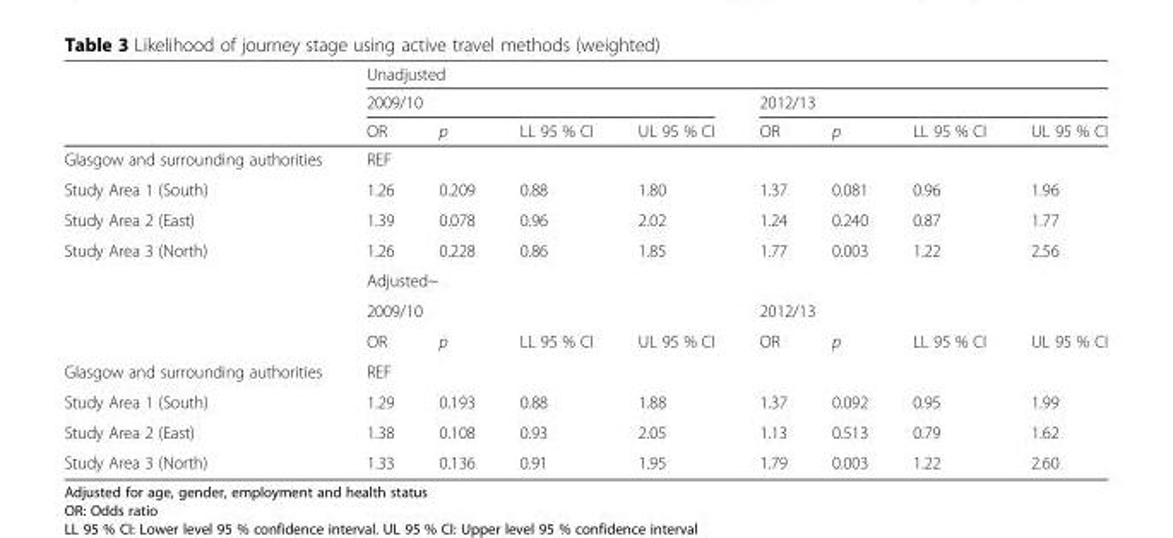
<table><thead><tr><td rowspan="3"></td><td colspan="8">Unadjusted</td></tr><tr><td colspan="4">2009/10</td><td colspan="4">2012/13</td></tr><tr><td>OR</td><td>p</td><td>LL 95 % CI</td><td>UL 95 % CI</td><td>OR</td><td>p</td><td>LL 95 % CI</td><td>UL 95 % CI</td></tr></thead><tbody><tr><td>Glasgow and surrounding authorities</td><td colspan="8">REF</td></tr><tr><td>Study Area 1 (South)</td><td>1.26</td><td>0.209</td><td>0.88</td><td>1.80</td><td>1.37</td><td>0.081</td><td>0.96</td><td>1.96</td></tr><tr><td>Study Area 2 (East)</td><td>1.39</td><td>0.078</td><td>0.96</td><td>2.02</td><td>1.24</td><td>0.240</td><td>0.87</td><td>1.77</td></tr><tr><td rowspan="4">Study Area 3 (North)</td><td>1.26</td><td>0.228</td><td>0.86</td><td>1.85</td><td>1.77</td><td>0.003</td><td>1.22</td><td>2.56</td></tr><tr><td colspan="8">Adjusted~</td></tr><tr><td colspan="4">2009/10</td><td colspan="4">2012/13</td></tr><tr><td>OR</td><td>p</td><td>LL 95 % CI</td><td>UL 95 % CI</td><td>OR</td><td>p</td><td>LL 95 % CI</td><td>UL 95 % CI</td></tr><tr><td>Glasgow and surrounding authorities</td><td colspan="8">REF</td></tr><tr><td>Study Area 1 (South)</td><td>1.29</td><td>0.193</td><td>0.88</td><td>1.88</td><td>1.37</td><td>0.092</td><td>0.95</td><td>1.99</td></tr><tr><td>Study Area 2 (East)</td><td>1.38</td><td>0.108</td><td>0.93</td><td>2.05</td><td>1.13</td><td>0.513</td><td>0.79</td><td>1.62</td></tr><tr><td>Study Area 3 (North)</td><td>1.33</td><td>0.136</td><td>0.91</td><td>1.95</td><td>1.79</td><td>0.003</td><td>1.22</td><td>2.60</td></tr></tbody></table>